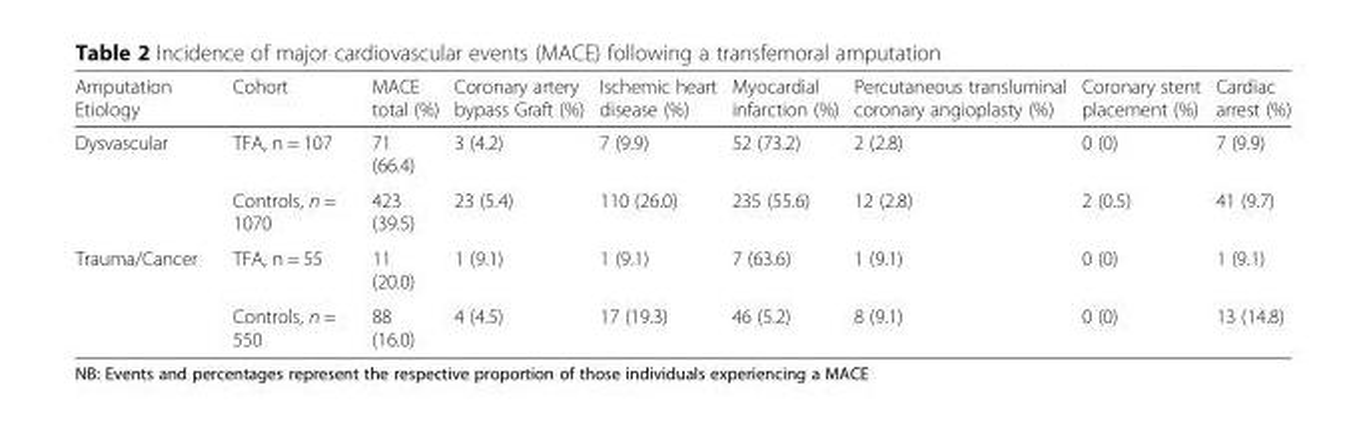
<table><thead><tr><td>Amputation Etiology</td><td>Cohort</td><td>MACE total (%)</td><td>Coronary artery bypass Graft (%)</td><td>Ischemic heart disease (%)</td><td>Myocardial infarction (%)</td><td>Percutaneous transluminal coronary angioplasty (%)</td><td>Coronary stent placement (%)</td><td>Cardiac arrest (%)</td></tr></thead><tbody><tr><td rowspan="2">Dysvascular</td><td>TFA, n = 107</td><td>71 (66.4)</td><td>3 (4.2)</td><td>7 (9.9)</td><td>52 (73.2)</td><td>2 (2.8)</td><td>0 (0)</td><td>7 (9.9)</td></tr><tr><td>Controls, n = 1070</td><td>423 (39.5)</td><td>23 (5.4)</td><td>110 (26.0)</td><td>235 (55.6)</td><td>12 (2.8)</td><td>2 (0.5)</td><td>41 (9.7)</td></tr><tr><td rowspan="2">Trauma/Cancer</td><td>TFA, n = 55</td><td>11 (20.0)</td><td>1 (9.1)</td><td>1 (9.1)</td><td>7 (63.6)</td><td>1 (9.1)</td><td>0 (0)</td><td>1 (9.1)</td></tr><tr><td>Controls, n = 550</td><td>88 (16.0)</td><td>4 (4.5)</td><td>17 (19.3)</td><td>46 (5.2)</td><td>8 (9.1)</td><td>0 (0)</td><td>13 (14.8)</td></tr></tbody></table>